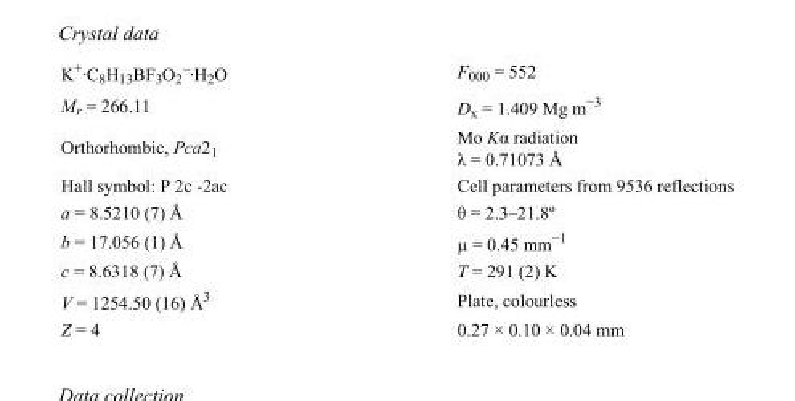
<table><tbody><tr><td>K<sup>+</sup>·C<sub>8</sub>H<sub>13</sub>BF<sub>3</sub>O<sub>2</sub> <sup>–</sup>·H<sub>2</sub>O</td><td>F000 = 552</td></tr><tr><td>M<sub>r</sub> = 266.11</td><td>D<sub>x</sub> = 1.409 Mg m<sup>−3</sup></td></tr><tr><td>Orthorhombic, Pca2<sub>1</sub></td><td>Mo Kα radiation λ = 0.71073 Å</td></tr><tr><td>Hall symbol: P 2c -2ac</td><td>Cell parameters from 9536 reflections</td></tr><tr><td>a = 8.5210 (7) Å</td><td>θ = 2.3–21.8º</td></tr><tr><td>b = 17.056 (1) Å</td><td>µ = 0.45 mm<sup>−1</sup></td></tr><tr><td>c = 8.6318 (7) Å</td><td>T = 291 (2) K</td></tr><tr><td>V = 1254.50 (16) Å<sup>3</sup></td><td>Plate, colourless</td></tr><tr><td>Z = 4</td><td>0.27 × 0.10 × 0.04 mm</td></tr></tbody></table>